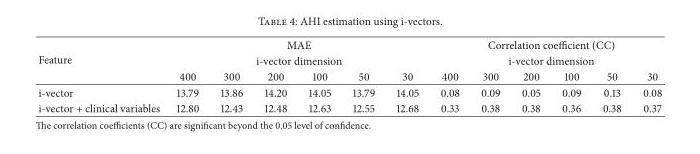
<table><thead><tr><td rowspan="3">Feature</td><td rowspan="2" colspan="6">MAE i-vector dimension</td><td rowspan="2" colspan="6">Correlation coefficient (CC) i-vector dimension</td></tr><tr></tr><tr><td>400</td><td>300</td><td>200</td><td>100</td><td>50</td><td>30</td><td>400</td><td>300</td><td>200</td><td>100</td><td>50</td><td>30</td></tr></thead><tbody><tr><td>i-vector</td><td>13.79</td><td>13.86</td><td>14.20</td><td>14.05</td><td>13.79</td><td>14.05</td><td>0.08</td><td>0.09</td><td>0.05</td><td>0.09</td><td>0.13</td><td>0.08</td></tr><tr><td>i-vector + clinical variables</td><td>12.80</td><td>12.43</td><td>12.48</td><td>12.63</td><td>12.55</td><td>12.68</td><td>0.33</td><td>0.38</td><td>0.38</td><td>0.36</td><td>0.38</td><td>0.37</td></tr></tbody></table>